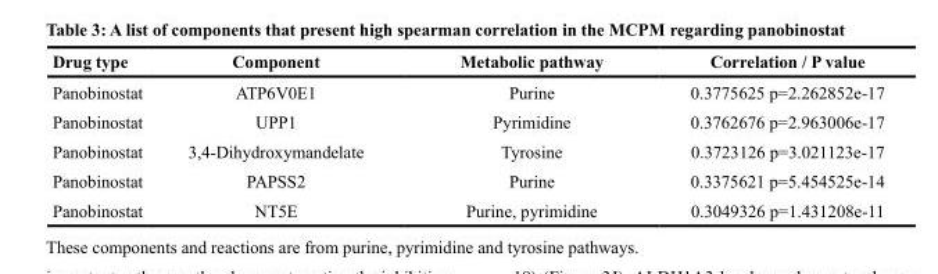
<table><thead><tr><td>Drug type</td><td>Component</td><td>Metabolic pathway</td><td>Correlation / P value</td></tr></thead><tbody><tr><td>Panobinostat</td><td>ATP6V0E1</td><td>Purine</td><td>0.3775625 p=2.262852e-17</td></tr><tr><td>Panobinostat</td><td>UPP1</td><td>Pyrimidine</td><td>0.3762676 p=2.963006e-17</td></tr><tr><td>Panobinostat</td><td>3,4-Dihydroxymandelate</td><td>Tyrosine</td><td>0.3723126 p=3.021123e-17</td></tr><tr><td>Panobinostat</td><td>PAPSS2</td><td>Purine</td><td>0.3375621 p=5.454525e-14</td></tr><tr><td>Panobinostat</td><td>NT5E</td><td>Purine, pyrimidine</td><td>0.3049326 p=1.431208e-11</td></tr></tbody></table>